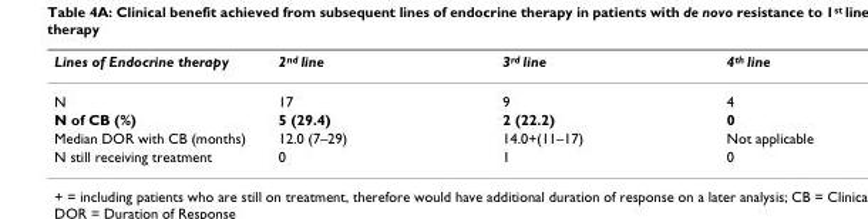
<table><thead><tr><td>Lines of Endocrine therapy</td><td>2<sup>nd</sup> line</td><td>3<sup>rd</sup> line</td><td>4<sup>th</sup> line</td></tr></thead><tbody><tr><td>N</td><td>17</td><td>9</td><td>4</td></tr><tr><td>N of CB (%)</td><td>5 (29.4)</td><td>2 (22.2)</td><td>0</td></tr><tr><td>Median DOR with CB (months)</td><td>12.0 (7–29)</td><td>14.0+(11–17)</td><td>Not applicable</td></tr><tr><td>N still receiving treatment</td><td>0</td><td>1</td><td>0</td></tr></tbody></table>